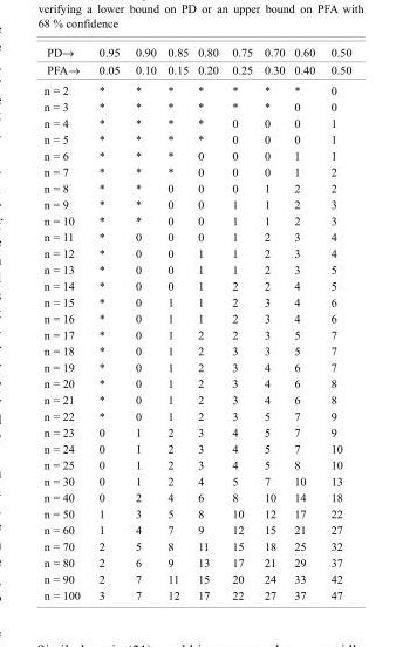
<table><thead><tr><td rowspan="2">PD→ PFA→</td><td rowspan="2">0.95 0.05</td><td rowspan="2">0.90 0.10</td><td rowspan="2">0.85 0.15</td><td rowspan="2">0.80 0.20</td><td rowspan="2">0.75 0.25</td><td rowspan="2">0.70 0.30</td><td rowspan="2">0.60 0.40</td><td rowspan="2">0.50 0.50</td></tr><tr></tr></thead><tbody><tr><td>n = 2</td><td>*</td><td>*</td><td>*</td><td>*</td><td>*</td><td>*</td><td>*</td><td>0</td></tr><tr><td>n = 3</td><td>*</td><td>*</td><td>*</td><td>*</td><td>*</td><td>*</td><td>0</td><td>0</td></tr><tr><td>n = 4</td><td>*</td><td>*</td><td>*</td><td>*</td><td>0</td><td>0</td><td>0</td><td>1</td></tr><tr><td>n = 5</td><td>*</td><td>*</td><td>*</td><td>*</td><td>0</td><td>0</td><td>0</td><td>1</td></tr><tr><td>n = 6</td><td>*</td><td>*</td><td>*</td><td>0</td><td>0</td><td>0</td><td>1</td><td>1</td></tr><tr><td>n = 7</td><td>*</td><td>*</td><td>*</td><td>0</td><td>0</td><td>0</td><td>1</td><td>2</td></tr><tr><td>n = 8</td><td>*</td><td>*</td><td>0</td><td>0</td><td>0</td><td>1</td><td>2</td><td>2</td></tr><tr><td>n = 9</td><td>*</td><td>*</td><td>0</td><td>0</td><td>1</td><td>1</td><td>2</td><td>3</td></tr><tr><td>n = 10</td><td>*</td><td>*</td><td>0</td><td>0</td><td>1</td><td>1</td><td>2</td><td>3</td></tr><tr><td>n = 11</td><td>*</td><td>0</td><td>0</td><td>0</td><td>1</td><td>2</td><td>3</td><td>4</td></tr><tr><td>n = 12</td><td>*</td><td>0</td><td>0</td><td>1</td><td>1</td><td>2</td><td>3</td><td>4</td></tr><tr><td>n = 13</td><td>*</td><td>0</td><td>0</td><td>1</td><td>1</td><td>2</td><td>3</td><td>5</td></tr><tr><td>n = 14</td><td>*</td><td>0</td><td>0</td><td>1</td><td>2</td><td>2</td><td>4</td><td>5</td></tr><tr><td>n = 15</td><td>*</td><td>0</td><td>1</td><td>1</td><td>2</td><td>3</td><td>4</td><td>6</td></tr><tr><td>n = 16</td><td>*</td><td>0</td><td>1</td><td>1</td><td>2</td><td>3</td><td>4</td><td>6</td></tr><tr><td>n = 17</td><td>*</td><td>0</td><td>1</td><td>2</td><td>2</td><td>3</td><td>5</td><td>7</td></tr><tr><td>n = 18</td><td>*</td><td>0</td><td>1</td><td>2</td><td>3</td><td>3</td><td>5</td><td>7</td></tr><tr><td>n = 19</td><td>*</td><td>0</td><td>1</td><td>2</td><td>3</td><td>4</td><td>6</td><td>7</td></tr><tr><td>n = 20</td><td>*</td><td>0</td><td>1</td><td>2</td><td>3</td><td>4</td><td>6</td><td>8</td></tr><tr><td>n = 21</td><td>*</td><td>0</td><td>1</td><td>2</td><td>3</td><td>4</td><td>6</td><td>8</td></tr><tr><td>n = 22</td><td>*</td><td>0</td><td>1</td><td>2</td><td>3</td><td>5</td><td>7</td><td>9</td></tr><tr><td>n = 23</td><td>0</td><td>1</td><td>2</td><td>3</td><td>4</td><td>5</td><td>7</td><td>9</td></tr><tr><td>n = 24</td><td>0</td><td>1</td><td>2</td><td>3</td><td>4</td><td>5</td><td>7</td><td>10</td></tr><tr><td>n = 25</td><td>0</td><td>1</td><td>2</td><td>3</td><td>4</td><td>5</td><td>8</td><td>10</td></tr><tr><td>n = 30</td><td>0</td><td>1</td><td>2</td><td>4</td><td>5</td><td>7</td><td>10</td><td>13</td></tr><tr><td>n = 40</td><td>0</td><td>2</td><td>4</td><td>6</td><td>8</td><td>10</td><td>14</td><td>18</td></tr><tr><td>n = 50</td><td>1</td><td>3</td><td>5</td><td>8</td><td>10</td><td>12</td><td>17</td><td>22</td></tr><tr><td>n = 60</td><td>1</td><td>4</td><td>7</td><td>9</td><td>12</td><td>15</td><td>21</td><td>27</td></tr><tr><td>n = 70</td><td>2</td><td>5</td><td>8</td><td>11</td><td>15</td><td>18</td><td>25</td><td>32</td></tr><tr><td>n = 80</td><td>2</td><td>6</td><td>9</td><td>13</td><td>17</td><td>21</td><td>29</td><td>37</td></tr><tr><td>n = 90</td><td>2</td><td>7</td><td>11</td><td>15</td><td>20</td><td>24</td><td>33</td><td>42</td></tr><tr><td>n = 100</td><td>3</td><td>7</td><td>12</td><td>17</td><td>22</td><td>27</td><td>37</td><td>47</td></tr></tbody></table>